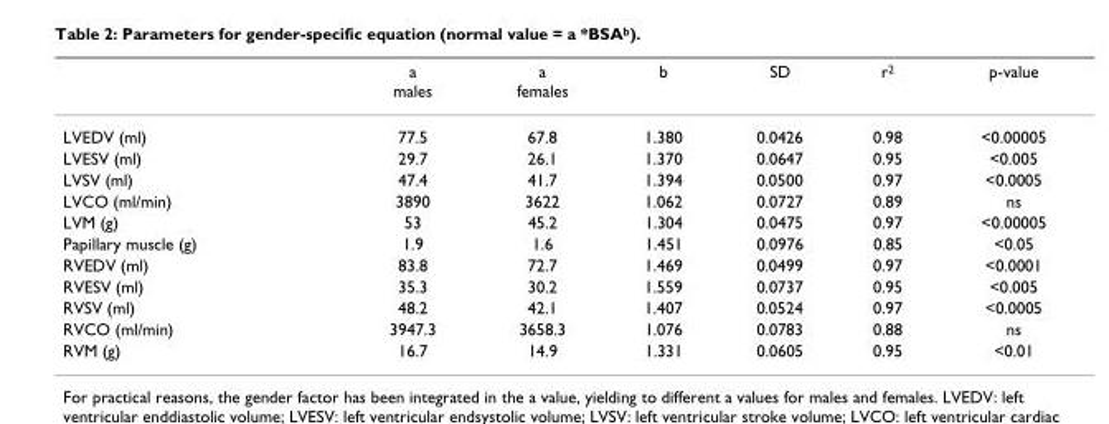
<table><thead><tr><td></td><td>a males</td><td>a females</td><td>b</td><td>SD</td><td>r<sup>2</sup></td><td>p-value</td></tr></thead><tbody><tr><td>LVEDV (ml)</td><td>77.5</td><td>67.8</td><td>1.380</td><td>0.0426</td><td>0.98</td><td>&lt;0.00005</td></tr><tr><td>LVESV (ml)</td><td>29.7</td><td>26.1</td><td>1.370</td><td>0.0647</td><td>0.95</td><td>&lt;0.005</td></tr><tr><td>LVSV (ml)</td><td>47.4</td><td>41.7</td><td>1.394</td><td>0.0500</td><td>0.97</td><td>&lt;0.0005</td></tr><tr><td>LVCO (ml/min)</td><td>3890</td><td>3622</td><td>1.062</td><td>0.0727</td><td>0.89</td><td>ns</td></tr><tr><td>LVM (g)</td><td>53</td><td>45.2</td><td>1.304</td><td>0.0475</td><td>0.97</td><td>&lt;0.00005</td></tr><tr><td>Papillary muscle (g)</td><td>1.9</td><td>1.6</td><td>1.451</td><td>0.0976</td><td>0.85</td><td>&lt;0.05</td></tr><tr><td>RVEDV (ml)</td><td>83.8</td><td>72.7</td><td>1.469</td><td>0.0499</td><td>0.97</td><td>&lt;0.0001</td></tr><tr><td>RVESV (ml)</td><td>35.3</td><td>30.2</td><td>1.559</td><td>0.0737</td><td>0.95</td><td>&lt;0.005</td></tr><tr><td>RVSV (ml)</td><td>48.2</td><td>42.1</td><td>1.407</td><td>0.0524</td><td>0.97</td><td>&lt;0.0005</td></tr><tr><td>RVCO (ml/min)</td><td>3947.3</td><td>3658.3</td><td>1.076</td><td>0.0783</td><td>0.88</td><td>ns</td></tr><tr><td>RVM (g)</td><td>16.7</td><td>14.9</td><td>1.331</td><td>0.0605</td><td>0.95</td><td>&lt;0.01</td></tr></tbody></table>